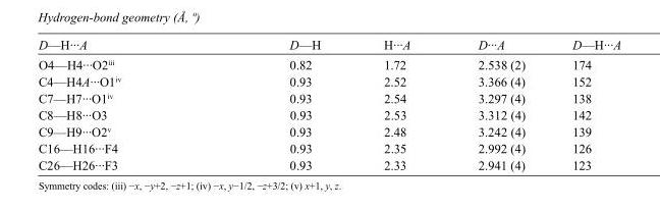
<table><tbody><tr><td>D—H···A</td><td>D—H</td><td>H···A</td><td>D···A</td><td>D—H···A</td></tr><tr><td>O4—H4···O2<sup>iii</sup></td><td>0.82</td><td>1.72</td><td>2.538 (2)</td><td>174</td></tr><tr><td>C4—H4A···O1<sup>iv</sup></td><td>0.93</td><td>2.52</td><td>3.366 (4)</td><td>152</td></tr><tr><td>C7—H7···O1<sup>iv</sup></td><td>0.93</td><td>2.54</td><td>3.297 (4)</td><td>138</td></tr><tr><td>C8—H8···O3</td><td>0.93</td><td>2.53</td><td>3.312 (4)</td><td>142</td></tr><tr><td>C9—H9···O2<sup>v</sup></td><td>0.93</td><td>2.48</td><td>3.242 (4)</td><td>139</td></tr><tr><td>C16—H16···F4</td><td>0.93</td><td>2.35</td><td>2.992 (4)</td><td>126</td></tr><tr><td>C26—H26···F3</td><td>0.93</td><td>2.33</td><td>2.941 (4)</td><td>123</td></tr></tbody></table>